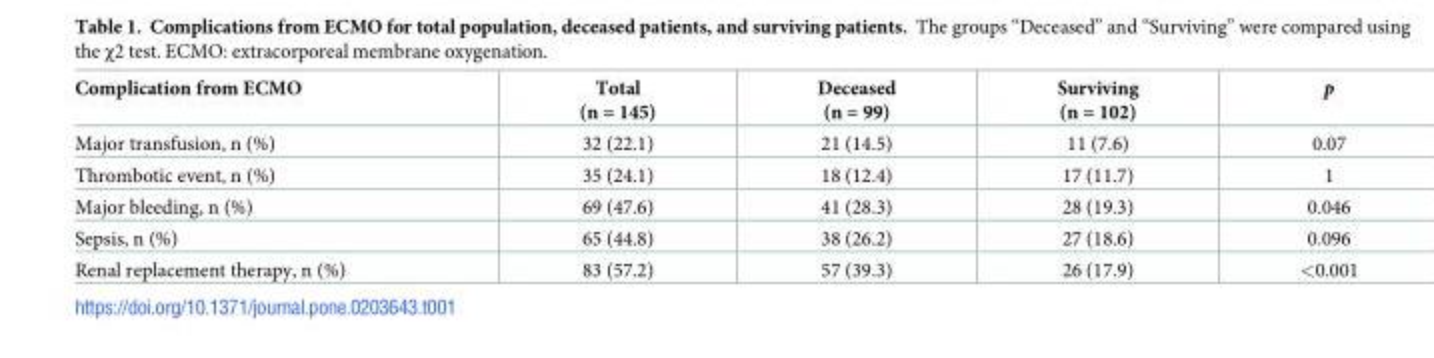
<table><thead><tr><td>Complication from ECMO</td><td>Total (n = 145)</td><td>Deceased (n = 99)</td><td>Surviving (n = 102)</td><td>p</td></tr></thead><tbody><tr><td>Major transfusion, n (%)</td><td>32 (22.1)</td><td>21 (14.5)</td><td>11 (7.6)</td><td>0.07</td></tr><tr><td>Thrombotic event, n (%)</td><td>35 (24.1)</td><td>18 (12.4)</td><td>17 (11.7)</td><td>1</td></tr><tr><td>Major bleeding, n (%)</td><td>69 (47.6)</td><td>41 (28.3)</td><td>28 (19.3)</td><td>0.046</td></tr><tr><td>Sepsis, n (%)</td><td>65 (44.8)</td><td>38 (26.2)</td><td>27 (18.6)</td><td>0.096</td></tr><tr><td>Renal replacement therapy, n (%)</td><td>83 (57.2)</td><td>57 (39.3)</td><td>26 (17.9)</td><td>&lt;0.001</td></tr></tbody></table>